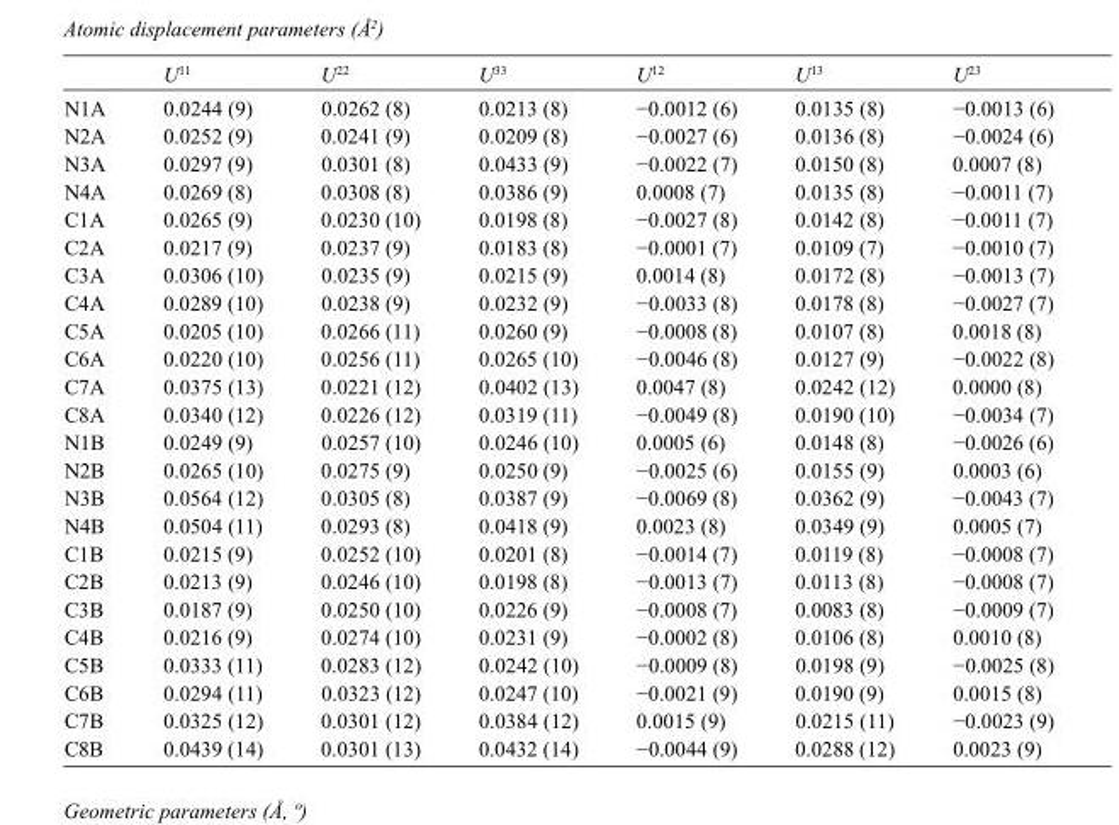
<table><thead><tr><td></td><td>U<sup>11</sup></td><td>U<sup>22</sup></td><td>U<sup>33</sup></td><td>U<sup>12</sup></td><td>U<sup>13</sup></td><td>U<sup>23</sup></td></tr></thead><tbody><tr><td>N1A</td><td>0.0244 (9)</td><td>0.0262 (8)</td><td>0.0213 (8)</td><td>−0.0012 (6)</td><td>0.0135 (8)</td><td>−0.0013 (6)</td></tr><tr><td>N2A</td><td>0.0252 (9)</td><td>0.0241 (9)</td><td>0.0209 (8)</td><td>−0.0027 (6)</td><td>0.0136 (8)</td><td>−0.0024 (6)</td></tr><tr><td>N3A</td><td>0.0297 (9)</td><td>0.0301 (8)</td><td>0.0433 (9)</td><td>−0.0022 (7)</td><td>0.0150 (8)</td><td>0.0007 (8)</td></tr><tr><td>N4A</td><td>0.0269 (8)</td><td>0.0308 (8)</td><td>0.0386 (9)</td><td>0.0008 (7)</td><td>0.0135 (8)</td><td>−0.0011 (7)</td></tr><tr><td>C1A</td><td>0.0265 (9)</td><td>0.0230 (10)</td><td>0.0198 (8)</td><td>−0.0027 (8)</td><td>0.0142 (8)</td><td>−0.0011 (7)</td></tr><tr><td>C2A</td><td>0.0217 (9)</td><td>0.0237 (9)</td><td>0.0183 (8)</td><td>−0.0001 (7)</td><td>0.0109 (7)</td><td>−0.0010 (7)</td></tr><tr><td>C3A</td><td>0.0306 (10)</td><td>0.0235 (9)</td><td>0.0215 (9)</td><td>0.0014 (8)</td><td>0.0172 (8)</td><td>−0.0013 (7)</td></tr><tr><td>C4A</td><td>0.0289 (10)</td><td>0.0238 (9)</td><td>0.0232 (9)</td><td>−0.0033 (8)</td><td>0.0178 (8)</td><td>−0.0027 (7)</td></tr><tr><td>C5A</td><td>0.0205 (10)</td><td>0.0266 (11)</td><td>0.0260 (9)</td><td>−0.0008 (8)</td><td>0.0107 (8)</td><td>0.0018 (8)</td></tr><tr><td>C6A</td><td>0.0220 (10)</td><td>0.0256 (11)</td><td>0.0265 (10)</td><td>−0.0046 (8)</td><td>0.0127 (9)</td><td>−0.0022 (8)</td></tr><tr><td>C7A</td><td>0.0375 (13)</td><td>0.0221 (12)</td><td>0.0402 (13)</td><td>0.0047 (8)</td><td>0.0242 (12)</td><td>0.0000 (8)</td></tr><tr><td>C8A</td><td>0.0340 (12)</td><td>0.0226 (12)</td><td>0.0319 (11)</td><td>−0.0049 (8)</td><td>0.0190 (10)</td><td>−0.0034 (7)</td></tr><tr><td>N1B</td><td>0.0249 (9)</td><td>0.0257 (10)</td><td>0.0246 (10)</td><td>0.0005 (6)</td><td>0.0148 (8)</td><td>−0.0026 (6)</td></tr><tr><td>N2B</td><td>0.0265 (10)</td><td>0.0275 (9)</td><td>0.0250 (9)</td><td>−0.0025 (6)</td><td>0.0155 (9)</td><td>0.0003 (6)</td></tr><tr><td>N3B</td><td>0.0564 (12)</td><td>0.0305 (8)</td><td>0.0387 (9)</td><td>−0.0069 (8)</td><td>0.0362 (9)</td><td>−0.0043 (7)</td></tr><tr><td>N4B</td><td>0.0504 (11)</td><td>0.0293 (8)</td><td>0.0418 (9)</td><td>0.0023 (8)</td><td>0.0349 (9)</td><td>0.0005 (7)</td></tr><tr><td>C1B</td><td>0.0215 (9)</td><td>0.0252 (10)</td><td>0.0201 (8)</td><td>−0.0014 (7)</td><td>0.0119 (8)</td><td>−0.0008 (7)</td></tr><tr><td>C2B</td><td>0.0213 (9)</td><td>0.0246 (10)</td><td>0.0198 (8)</td><td>−0.0013 (7)</td><td>0.0113 (8)</td><td>−0.0008 (7)</td></tr><tr><td>C3B</td><td>0.0187 (9)</td><td>0.0250 (10)</td><td>0.0226 (9)</td><td>−0.0008 (7)</td><td>0.0083 (8)</td><td>−0.0009 (7)</td></tr><tr><td>C4B</td><td>0.0216 (9)</td><td>0.0274 (10)</td><td>0.0231 (9)</td><td>−0.0002 (8)</td><td>0.0106 (8)</td><td>0.0010 (8)</td></tr><tr><td>C5B</td><td>0.0333 (11)</td><td>0.0283 (12)</td><td>0.0242 (10)</td><td>−0.0009 (8)</td><td>0.0198 (9)</td><td>−0.0025 (8)</td></tr><tr><td>C6B</td><td>0.0294 (11)</td><td>0.0323 (12)</td><td>0.0247 (10)</td><td>−0.0021 (9)</td><td>0.0190 (9)</td><td>0.0015 (8)</td></tr><tr><td>C7B</td><td>0.0325 (12)</td><td>0.0301 (12)</td><td>0.0384 (12)</td><td>0.0015 (9)</td><td>0.0215 (11)</td><td>−0.0023 (9)</td></tr><tr><td>C8B</td><td>0.0439 (14)</td><td>0.0301 (13)</td><td>0.0432 (14)</td><td>−0.0044 (9)</td><td>0.0288 (12)</td><td>0.0023 (9)</td></tr></tbody></table>